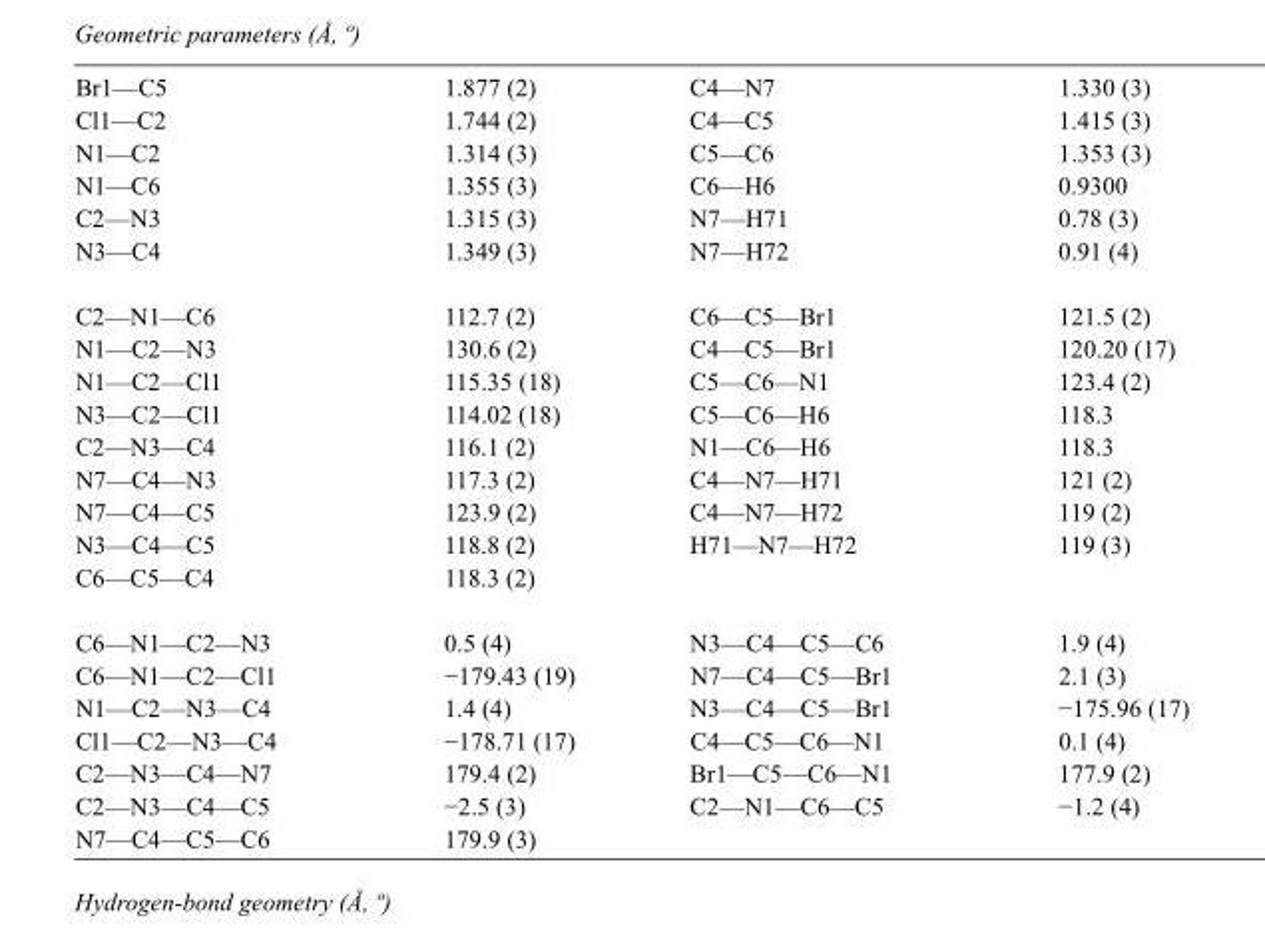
<table><tbody><tr><td>Br1—C5</td><td>1.877 (2)</td><td>C4—N7</td><td>1.330 (3)</td></tr><tr><td>Cl1—C2</td><td>1.744 (2)</td><td>C4—C5</td><td>1.415 (3)</td></tr><tr><td>N1—C2</td><td>1.314 (3)</td><td>C5—C6</td><td>1.353 (3)</td></tr><tr><td>N1—C6</td><td>1.355 (3)</td><td>C6—H6</td><td>0.9300</td></tr><tr><td>C2—N3</td><td>1.315 (3)</td><td>N7—H71</td><td>0.78 (3)</td></tr><tr><td>N3—C4</td><td>1.349 (3)</td><td>N7—H72</td><td>0.91 (4)</td></tr><tr><td>C2—N1—C6</td><td>112.7 (2)</td><td>C6—C5—Br1</td><td>121.5 (2)</td></tr><tr><td>N1—C2—N3</td><td>130.6 (2)</td><td>C4—C5—Br1</td><td>120.20 (17)</td></tr><tr><td>N1—C2—Cl1</td><td>115.35 (18)</td><td>C5—C6—N1</td><td>123.4 (2)</td></tr><tr><td>N3—C2—Cl1</td><td>114.02 (18)</td><td>C5—C6—H6</td><td>118.3</td></tr><tr><td>C2—N3—C4</td><td>116.1 (2)</td><td>N1—C6—H6</td><td>118.3</td></tr><tr><td>N7—C4—N3</td><td>117.3 (2)</td><td>C4—N7—H71</td><td>121 (2)</td></tr><tr><td>N7—C4—C5</td><td>123.9 (2)</td><td>C4—N7—H72</td><td>119 (2)</td></tr><tr><td>N3—C4—C5</td><td>118.8 (2)</td><td>H71—N7—H72</td><td>119 (3)</td></tr><tr><td>C6—C5—C4</td><td>118.3 (2)</td><td></td><td></td></tr><tr><td>C6—N1—C2—N3</td><td>0.5 (4)</td><td>N3—C4—C5—C6</td><td>1.9 (4)</td></tr><tr><td>C6—N1—C2—Cl1</td><td>−179.43 (19)</td><td>N7—C4—C5—Br1</td><td>2.1 (3)</td></tr><tr><td>N1—C2—N3—C4</td><td>1.4 (4)</td><td>N3—C4—C5—Br1</td><td>−175.96 (17)</td></tr><tr><td>Cl1—C2—N3—C4</td><td>−178.71 (17)</td><td>C4—C5—C6—N1</td><td>0.1 (4)</td></tr><tr><td>C2—N3—C4—N7</td><td>179.4 (2)</td><td>Br1—C5—C6—N1</td><td>177.9 (2)</td></tr><tr><td>C2—N3—C4—C5</td><td>−2.5 (3)</td><td>C2—N1—C6—C5</td><td>−1.2 (4)</td></tr><tr><td>N7—C4—C5—C6</td><td>179.9 (3)</td><td></td><td></td></tr></tbody></table>